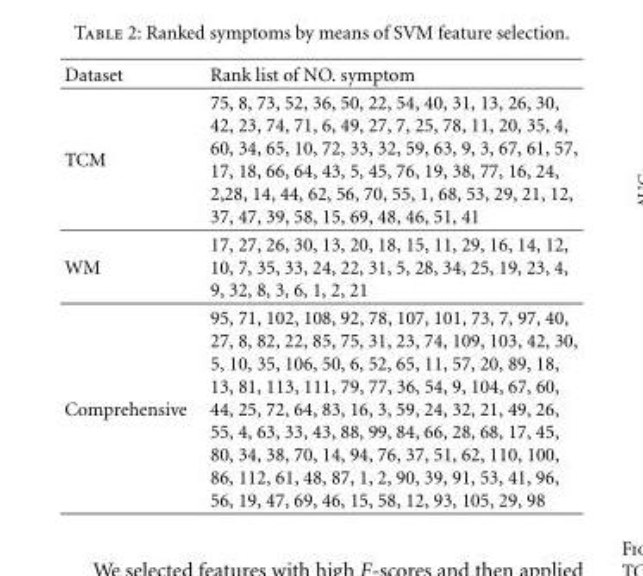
<table><thead><tr><td>Dataset</td><td>Rank list of NO. symptom</td></tr></thead><tbody><tr><td>TCM</td><td>75, 8, 73, 52, 36, 50, 22, 54, 40, 31, 13, 26, 30, 42, 23, 74, 71, 6, 49, 27, 7, 25, 78, 11, 20, 35, 4, 60, 34, 65, 10, 72, 33, 32, 59, 63, 9, 3, 67, 61, 57, 17, 18, 66, 64, 43, 5, 45, 76, 19, 38, 77, 16, 24, 2,28, 14, 44, 62, 56, 70, 55, 1, 68, 53, 29, 21, 12, 37, 47, 39, 58, 15, 69, 48, 46, 51, 41</td></tr><tr><td>WM</td><td>17, 27, 26, 30, 13, 20, 18, 15, 11, 29, 16, 14, 12, 10, 7, 35, 33, 24, 22, 31, 5, 28, 34, 25, 19, 23, 4, 9, 32, 8, 3, 6, 1, 2, 21</td></tr><tr><td>Comprehensive</td><td>95, 71, 102, 108, 92, 78, 107, 101, 73, 7, 97, 40, 27, 8, 82, 22, 85, 75, 31, 23, 74, 109, 103, 42, 30, 5, 10, 35, 106, 50, 6, 52, 65, 11, 57, 20, 89, 18, 13, 81, 113, 111, 79, 77, 36, 54, 9, 104, 67, 60, 44, 25, 72, 64, 83, 16, 3, 59, 24, 32, 21, 49, 26, 55, 4, 63, 33, 43, 88, 99, 84, 66, 28, 68, 17, 45, 80, 34, 38, 70, 14, 94, 76, 37, 51, 62, 110, 100, 86, 112, 61, 48, 87, 1, 2, 90, 39, 91, 53, 41, 96, 56, 19, 47, 69, 46, 15, 58, 12, 93, 105, 29, 98</td></tr></tbody></table>